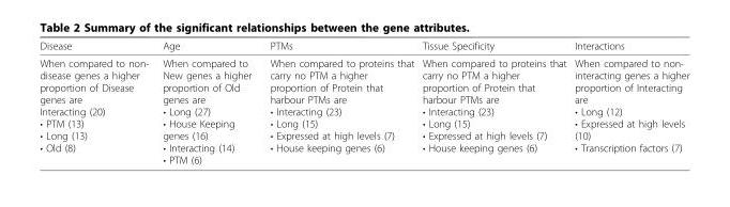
<table><thead><tr><td>Disease</td><td>Age</td><td>PTMs</td><td>Tissue Specificity</td><td>Interactions</td></tr></thead><tbody><tr><td>When compared to non- disease genes a higher proportion of Disease genes are Interacting (20) • PTM (13) • Long (13) • Old (8)</td><td>When compared to New genes a higher proportion of Old genes are • Long (27) • House Keeping genes (16) • Interacting (14) • PTM (6)</td><td>When compared to proteins that carry no PTM a higher proportion of Protein that harbour PTMs are • Interacting (23) • Long (15) • Expressed at high levels (7) • House keeping genes (6)</td><td>When compared to proteins that carry no PTM a higher proportion of Protein that harbour PTMs are • Interacting (23) • Long (15) • Expressed at high levels (7) • House keeping genes (6)</td><td>When compared to non- interacting genes a higher proportion of Interacting are • Long (12) • Expressed at high levels (10) • Transcription factors (7)</td></tr></tbody></table>